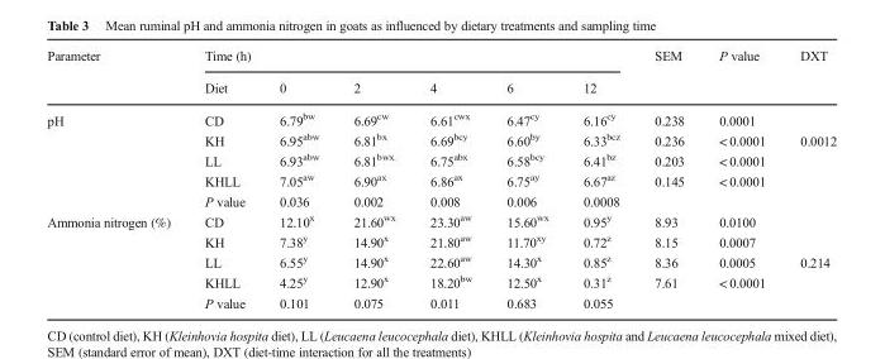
<table><thead><tr><td rowspan="2">Parameter</td><td colspan="6">Time (h)</td><td rowspan="2">SEM</td><td rowspan="2">P value</td><td rowspan="2">DXT</td></tr><tr><td>Diet</td><td>0</td><td>2</td><td>4</td><td>6</td><td>12</td></tr></thead><tbody><tr><td rowspan="5">pH</td><td>CD</td><td>6.79<sup>bw</sup></td><td>6.69<sup>cw</sup></td><td>6.61<sup>cwx</sup></td><td>6.47<sup>cy</sup></td><td>6.16<sup>cy</sup></td><td>0.238</td><td>0.0001</td><td></td></tr><tr><td>KH</td><td>6.95<sup>abw</sup></td><td>6.81<sup>bx</sup></td><td>6.69<sup>bcy</sup></td><td>6.60<sup>by</sup></td><td>6.33<sup>bcz</sup></td><td>0.236</td><td>&lt; 0.0001</td><td>0.0012</td></tr><tr><td>LL</td><td>6.93<sup>abw</sup></td><td>6.81<sup>bwx</sup></td><td>6.75<sup>abx</sup></td><td>6.58<sup>bcy</sup></td><td>6.41<sup>bz</sup></td><td>0.203</td><td>&lt; 0.0001</td><td></td></tr><tr><td>KHLL</td><td>7.05<sup>aw</sup></td><td>6.90<sup>ax</sup></td><td>6.86<sup>ax</sup></td><td>6.75<sup>ay</sup></td><td>6.67<sup>az</sup></td><td>0.145</td><td>&lt; 0.0001</td><td></td></tr><tr><td>P value</td><td>0.036</td><td>0.002</td><td>0.008</td><td>0.006</td><td>0.0008</td><td></td><td></td><td></td></tr><tr><td rowspan="5">Ammonia nitrogen (%)</td><td>CD</td><td>12.10<sup>x</sup></td><td>21.60<sup>wx</sup></td><td>23.30<sup>aw</sup></td><td>15.60<sup>wx</sup></td><td>0.95<sup>y</sup></td><td>8.93</td><td>0.0100</td><td></td></tr><tr><td>KH</td><td>7.38<sup>y</sup></td><td>14.90<sup>x</sup></td><td>21.80<sup>aw</sup></td><td>11.70<sup>xy</sup></td><td>0.72<sup>z</sup></td><td>8.15</td><td>0.0007</td><td></td></tr><tr><td>LL</td><td>6.55<sup>y</sup></td><td>14.90<sup>x</sup></td><td>22.60<sup>aw</sup></td><td>14.30<sup>x</sup></td><td>0.85<sup>z</sup></td><td>8.36</td><td>0.0005</td><td>0.214</td></tr><tr><td>KHLL</td><td>4.25<sup>y</sup></td><td>12.90<sup>x</sup></td><td>18.20<sup>bw</sup></td><td>12.50<sup>x</sup></td><td>0.31<sup>z</sup></td><td>7.61</td><td>&lt; 0.0001</td><td></td></tr><tr><td>P value</td><td>0.101</td><td>0.075</td><td>0.011</td><td>0.683</td><td>0.055</td><td></td><td></td><td></td></tr></tbody></table>